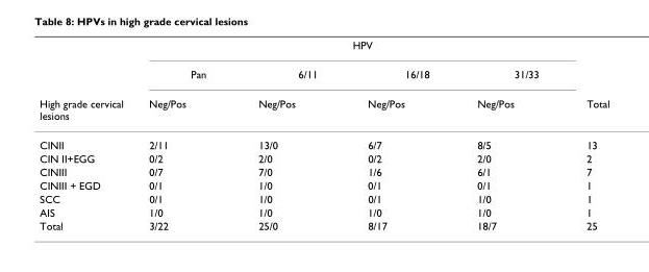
<table><thead><tr><td rowspan="3">High grade cervical lesions</td><td colspan="4">HPV</td><td rowspan="3">Total</td></tr><tr><td rowspan="2">Pan Neg/Pos</td><td rowspan="2">6/11 Neg/Pos</td><td rowspan="2">16/18 Neg/Pos</td><td rowspan="2">31/33 Neg/Pos</td></tr><tr></tr></thead><tbody><tr><td>CINII</td><td>2/11</td><td>13/0</td><td>6/7</td><td>8/5</td><td>13</td></tr><tr><td>CIN II+EGG</td><td>0/2</td><td>2/0</td><td>0/2</td><td>2/0</td><td>2</td></tr><tr><td>CINIII</td><td>0/7</td><td>7/0</td><td>1/6</td><td>6/1</td><td>7</td></tr><tr><td>CINIII + EGD</td><td>0/1</td><td>1/0</td><td>0/1</td><td>0/1</td><td>1</td></tr><tr><td>SCC</td><td>0/1</td><td>1/0</td><td>0/1</td><td>1/0</td><td>1</td></tr><tr><td>AIS</td><td>1/0</td><td>1/0</td><td>1/0</td><td>1/0</td><td>1</td></tr><tr><td>Total</td><td>3/22</td><td>25/0</td><td>8/17</td><td>18/7</td><td>25</td></tr></tbody></table>